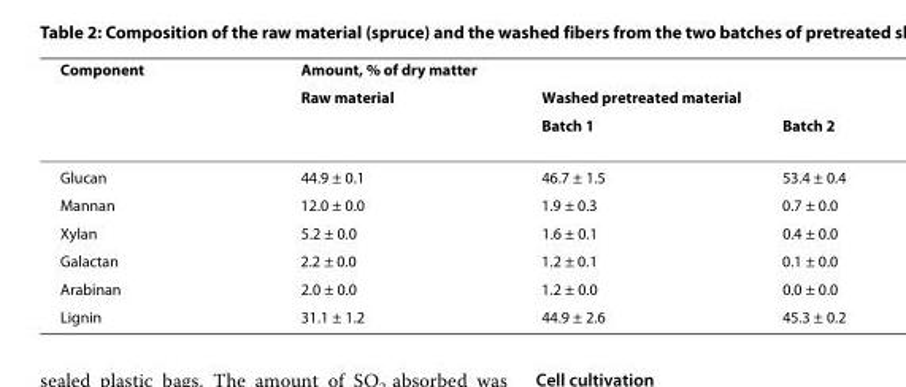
<table><thead><tr><td rowspan="3">Component</td><td colspan="3">Amount, % of dry matter</td></tr><tr><td rowspan="2">Raw material</td><td colspan="2">Washed pretreated material</td></tr><tr><td>Batch 1</td><td>Batch 2</td></tr></thead><tbody><tr><td>Glucan</td><td>44.9 ± 0.1</td><td>46.7 ± 1.5</td><td>53.4 ± 0.4</td></tr><tr><td>Mannan</td><td>12.0 ± 0.0</td><td>1.9 ± 0.3</td><td>0.7 ± 0.0</td></tr><tr><td>Xylan</td><td>5.2 ± 0.0</td><td>1.6 ± 0.1</td><td>0.4 ± 0.0</td></tr><tr><td>Galactan</td><td>2.2 ± 0.0</td><td>1.2 ± 0.1</td><td>0.1 ± 0.0</td></tr><tr><td>Arabinan</td><td>2.0 ± 0.0</td><td>1.2 ± 0.0</td><td>0.0 ± 0.0</td></tr><tr><td>Lignin</td><td>31.1 ± 1.2</td><td>44.9 ± 2.6</td><td>45.3 ± 0.2</td></tr></tbody></table>